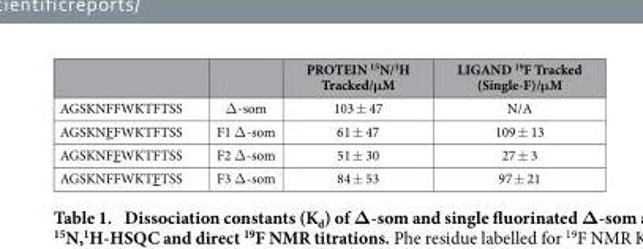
<table><thead><tr><td></td><td></td><td>PROTEIN <sup>15</sup>N/<sup>1</sup>H Tracked/μM</td><td>LIGAND <sup>19</sup>F Tracked (Single-F)/μM</td></tr></thead><tbody><tr><td>AGSKNFFWKTFTSS</td><td>Δ -som</td><td>103 ± 47</td><td>N/A</td></tr><tr><td>AGSKNFFWKTFTSS</td><td>F1 Δ -som</td><td>61 ± 47</td><td>109 ± 13</td></tr><tr><td>AGSKNFFWKTFTSS</td><td>F2 Δ -som</td><td>51 ± 30</td><td>27 ± 3</td></tr><tr><td>AGSKNFFWKTFTSS</td><td>F3 Δ -som</td><td>84 ± 53</td><td>97 ± 21</td></tr></tbody></table>